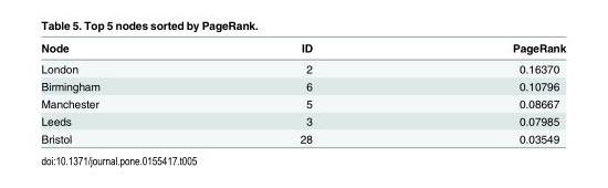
<table><thead><tr><td>Node</td><td>ID</td><td>PageRank</td></tr></thead><tbody><tr><td>London</td><td>2</td><td>0.16370</td></tr><tr><td>Birmingham</td><td>6</td><td>0.10796</td></tr><tr><td>Manchester</td><td>5</td><td>0.08667</td></tr><tr><td>Leeds</td><td>3</td><td>0.07985</td></tr><tr><td>Bristol</td><td>28</td><td>0.03549</td></tr></tbody></table>